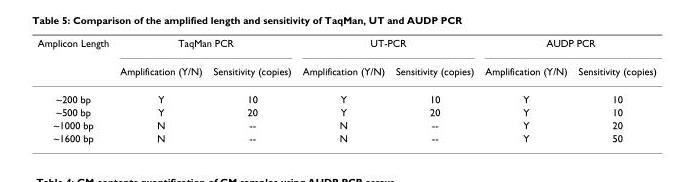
<table><thead><tr><td rowspan="2">Amplicon Length</td><td colspan="2">TaqMan PCR</td><td colspan="2">UT-PCR</td><td colspan="2">AUDP PCR</td></tr><tr><td>Amplification (Y/N)</td><td>Sensitivity (copies)</td><td>Amplification (Y/N)</td><td>Sensitivity (copies)</td><td>Amplification (Y/N)</td><td>Sensitivity (copies)</td></tr></thead><tbody><tr><td>~200 bp</td><td>Y</td><td>10</td><td>Y</td><td>10</td><td>Y</td><td>10</td></tr><tr><td>~500 bp</td><td>Y</td><td>20</td><td>Y</td><td>20</td><td>Y</td><td>10</td></tr><tr><td>~1000 bp</td><td>N</td><td>--</td><td>N</td><td>--</td><td>Y</td><td>20</td></tr><tr><td>~1600 bp</td><td>N</td><td>--</td><td>N</td><td>--</td><td>Y</td><td>50</td></tr></tbody></table>